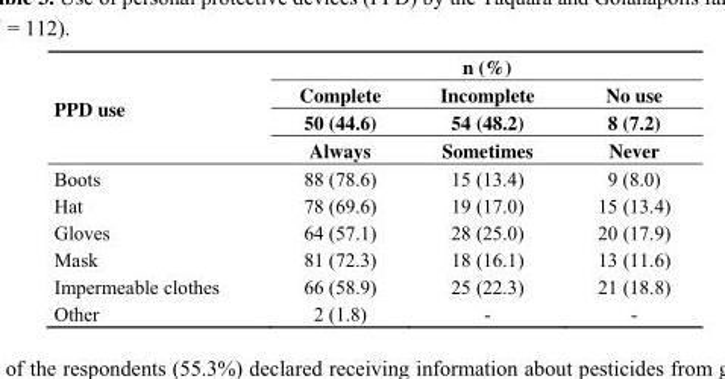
<table><thead><tr><td rowspan="4">PPD use</td><td colspan="3">n (%)</td></tr><tr><td rowspan="3">Complete 50 (44.6) Always</td><td rowspan="3">Incomplete 54 (48.2) Sometimes</td><td rowspan="3">No use 8 (7.2) Never</td></tr><tr></tr><tr></tr></thead><tbody><tr><td>Boots</td><td>88 (78.6)</td><td>15 (13.4)</td><td>9 (8.0)</td></tr><tr><td>Hat</td><td>78 (69.6)</td><td>19 (17.0)</td><td>15 (13.4)</td></tr><tr><td>Gloves</td><td>64 (57.1)</td><td>28 (25.0)</td><td>20 (17.9)</td></tr><tr><td>Mask</td><td>81 (72.3)</td><td>18 (16.1)</td><td>13 (11.6)</td></tr><tr><td>Impermeable clothes</td><td>66 (58.9)</td><td>25 (22.3)</td><td>21 (18.8)</td></tr><tr><td>Other</td><td>2 (1.8)</td><td>-</td><td>-</td></tr></tbody></table>